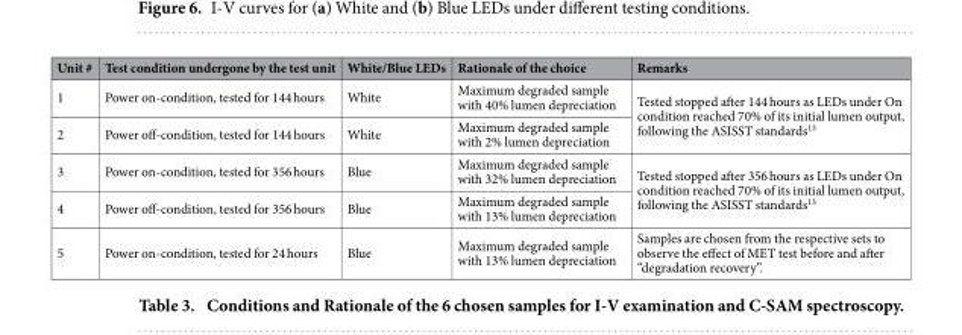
<table><thead><tr><td>Unit #</td><td>Test condition undergone by the test unit</td><td>White/Blue LEDs</td><td>Rationale of the choice</td><td>Remarks</td></tr></thead><tbody><tr><td>1</td><td>Power on-condition, tested for 144 hours</td><td>White</td><td>Maximum degraded sample with 40% lumen depreciation</td><td rowspan="2">Tested stopped after 144 hours as LEDs under On condition reached 70% of its initial lumen output, following the ASISST standards<sup>13</sup></td></tr><tr><td>2</td><td>Power off-condition, tested for 144 hours</td><td>White</td><td>Maximum degraded sample with 2% lumen depreciation</td></tr><tr><td>3</td><td>Power on-condition, tested for 356 hours</td><td>Blue</td><td>Maximum degraded sample with 32% lumen depreciation</td><td rowspan="2">Tested stopped after 356 hours as LEDs under On condition reached 70% of its initial lumen output, following the ASISST standards<sup>13</sup></td></tr><tr><td>4</td><td>Power off-condition, tested for 356 hours</td><td>Blue</td><td>Maximum degraded sample with 13% lumen depreciation</td></tr><tr><td>5</td><td>Power on-condition, tested for 24 hours</td><td>Blue</td><td>Maximum degraded sample with 13% lumen depreciation</td><td>Samples are chosen from the respective sets to observe the effect of MET test before and after “degradation recovery”.</td></tr></tbody></table>